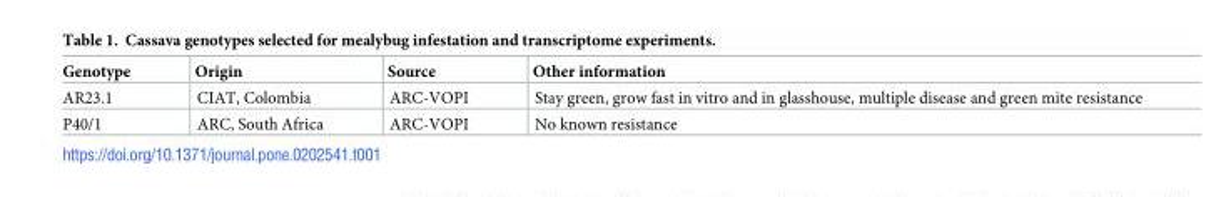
<table><thead><tr><td>Genotype</td><td>Origin</td><td>Source</td><td>Other information</td></tr></thead><tbody><tr><td>AR23.1</td><td>CIAT, Colombia</td><td>ARC-VOPI</td><td>Stay green, grow fast in vitro and in glasshouse, multiple disease and green mite resistance</td></tr><tr><td>P40/1</td><td>ARC, South Africa</td><td>ARC-VOPI</td><td>No known resistance</td></tr></tbody></table>